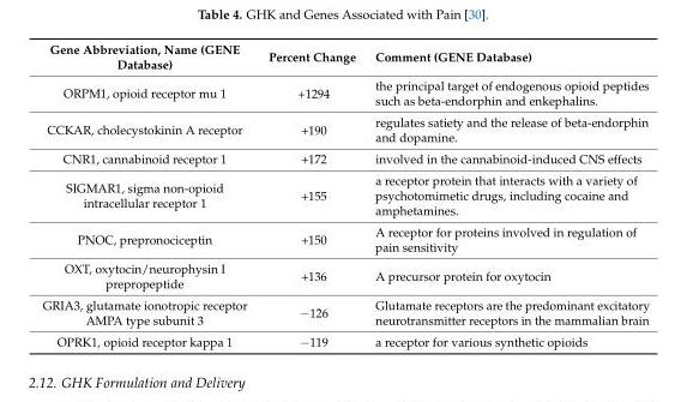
<table><thead><tr><td>Gene Abbreviation, Name (GENE Database)</td><td>Percent Change</td><td>Comment (GENE Database)</td></tr></thead><tbody><tr><td>ORPM1, opioid receptor mu 1</td><td>+1294</td><td>the principal target of endogenous opioid peptides such as beta-endorphin and enkephalins.</td></tr><tr><td>CCKAR, cholecystokinin A receptor</td><td>+190</td><td>regulates satiety and the release of beta-endorphin and dopamine.</td></tr><tr><td>CNR1, cannabinoid receptor 1</td><td>+172</td><td>involved in the cannabinoid-induced CNS effects</td></tr><tr><td>SIGMAR1, sigma non-opioid intracellular receptor 1</td><td>+155</td><td>a receptor protein that interacts with a variety of psychotomimetic drugs, including cocaine and amphetamines.</td></tr><tr><td>PNOC, prepronociceptin</td><td>+150</td><td>A receptor for proteins involved in regulation of pain sensitivity</td></tr><tr><td>OXT, oxytocin/neurophysin I prepropeptide</td><td>+136</td><td>A precursor protein for oxytocin</td></tr><tr><td>GRIA3, glutamate ionotropic receptor AMPA type subunit 3</td><td>−126</td><td>Glutamate receptors are the predominant excitatory neurotransmitter receptors in the mammalian brain</td></tr><tr><td>OPRK1, opioid receptor kappa 1</td><td>−119</td><td>a receptor for various synthetic opioids</td></tr></tbody></table>